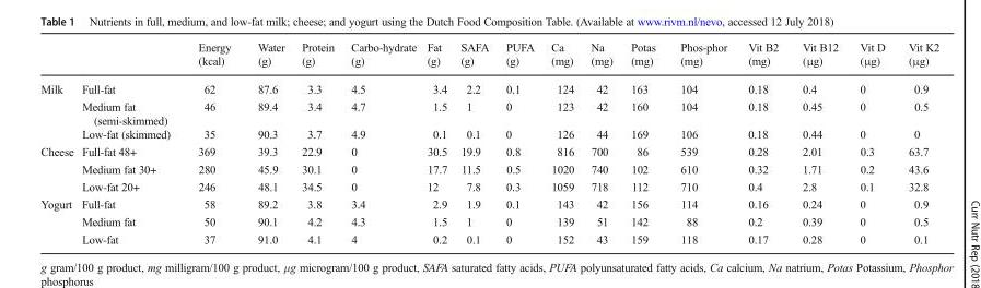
<table><thead><tr><td></td><td></td><td>Energy (kcal)</td><td>Water (g)</td><td>Protein (g)</td><td>Carbo-hydrate (g)</td><td>Fat (g)</td><td>SAFA (g)</td><td>PUFA (g)</td><td>Ca (mg)</td><td>Na (mg)</td><td>Potas (mg)</td><td>Phos-phor (mg)</td><td>Vit B2 (mg)</td><td>Vit B12 (μg)</td><td>Vit D (μg)</td><td>Vit K2 (μg)</td></tr></thead><tbody><tr><td rowspan="3">Milk</td><td>Full-fat</td><td>62</td><td>87.6</td><td>3.3</td><td>4.5</td><td>3.4</td><td>2.2</td><td>0.1</td><td>124</td><td>42</td><td>163</td><td>104</td><td>0.18</td><td>0.4</td><td>0</td><td>0.9</td></tr><tr><td>Medium fat (semi-skimmed)</td><td>46</td><td>89.4</td><td>3.4</td><td>4.7</td><td>1.5</td><td>1</td><td>0</td><td>123</td><td>42</td><td>160</td><td>104</td><td>0.18</td><td>0.45</td><td>0</td><td>0.5</td></tr><tr><td>Low-fat (skimmed)</td><td>35</td><td>90.3</td><td>3.7</td><td>4.9</td><td>0.1</td><td>0.1</td><td>0</td><td>126</td><td>44</td><td>169</td><td>106</td><td>0.18</td><td>0.44</td><td>0</td><td>0</td></tr><tr><td rowspan="3">Cheese</td><td>Full-fat 48+</td><td>369</td><td>39.3</td><td>22.9</td><td>0</td><td>30.5</td><td>19.9</td><td>0.8</td><td>816</td><td>700</td><td>86</td><td>539</td><td>0.28</td><td>2.01</td><td>0.3</td><td>63.7</td></tr><tr><td>Medium fat 30+</td><td>280</td><td>45.9</td><td>30.1</td><td>0</td><td>17.7</td><td>11.5</td><td>0.5</td><td>1020</td><td>740</td><td>102</td><td>610</td><td>0.32</td><td>1.71</td><td>0.2</td><td>43.6</td></tr><tr><td>Low-fat 20+</td><td>246</td><td>48.1</td><td>34.5</td><td>0</td><td>12</td><td>7.8</td><td>0.3</td><td>1059</td><td>718</td><td>112</td><td>710</td><td>0.4</td><td>2.8</td><td>0.1</td><td>32.8</td></tr><tr><td rowspan="3">Yogurt</td><td>Full-fat</td><td>58</td><td>89.2</td><td>3.8</td><td>3.4</td><td>2.9</td><td>1.9</td><td>0.1</td><td>143</td><td>42</td><td>156</td><td>114</td><td>0.16</td><td>0.24</td><td>0</td><td>0.9</td></tr><tr><td>Medium fat</td><td>50</td><td>90.1</td><td>4.2</td><td>4.3</td><td>1.5</td><td>1</td><td>0</td><td>139</td><td>51</td><td>142</td><td>88</td><td>0.2</td><td>0.39</td><td>0</td><td>0.5</td></tr><tr><td>Low-fat</td><td>37</td><td>91.0</td><td>4.1</td><td>4</td><td>0.2</td><td>0.1</td><td>0</td><td>152</td><td>43</td><td>159</td><td>118</td><td>0.17</td><td>0.28</td><td>0</td><td>0.1</td></tr></tbody></table>